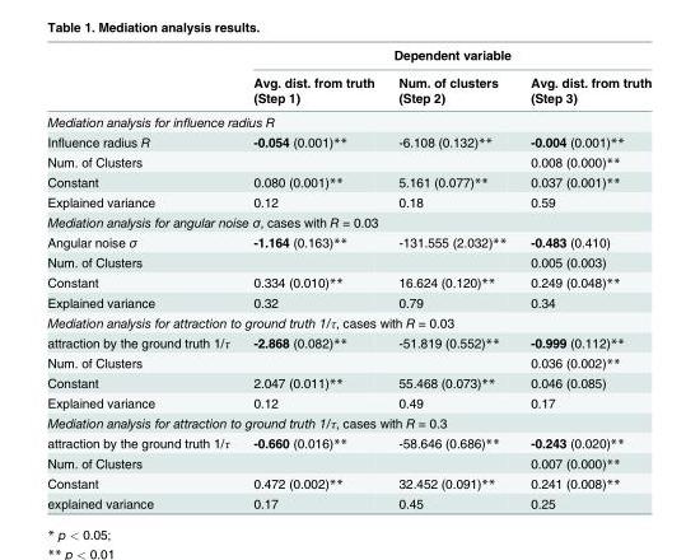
<table><thead><tr><td rowspan="3"></td><td colspan="3">Dependent variable</td></tr><tr><td rowspan="2">Avg. dist. from truth (Step 1)</td><td rowspan="2">Num. of clusters (Step 2)</td><td rowspan="2">Avg. dist. from truth (Step 3)</td></tr><tr></tr></thead><tbody><tr><td colspan="4">Mediation analysis for influence radius R</td></tr><tr><td>Influence radius R</td><td>-0.054 (0.001)**</td><td>-6.108 (0.132)**</td><td>-0.004 (0.001)**</td></tr><tr><td>Num. of Clusters</td><td></td><td></td><td>0.008 (0.000)**</td></tr><tr><td>Constant</td><td>0.080 (0.001)**</td><td>5.161 (0.077)**</td><td>0.037 (0.001)**</td></tr><tr><td>Explained variance</td><td>0.12</td><td>0.18</td><td>0.59</td></tr><tr><td colspan="4">Mediation analysis for angular noise σ, cases with R = 0.03</td></tr><tr><td>Angular noise σ</td><td>-1.164 (0.163)**</td><td>-131.555 (2.032)**</td><td>-0.483 (0.410)</td></tr><tr><td>Num. of Clusters</td><td></td><td></td><td>0.005 (0.003)</td></tr><tr><td>Constant</td><td>0.334 (0.010)**</td><td>16.624 (0.120)**</td><td>0.249 (0.048)**</td></tr><tr><td>Explained variance</td><td>0.32</td><td>0.79</td><td>0.34</td></tr><tr><td colspan="4">Mediation analysis for attraction to ground truth 1/τ, cases with R = 0.03</td></tr><tr><td>attraction by the ground truth 1/τ</td><td>-2.868 (0.082)**</td><td>-51.819 (0.552)**</td><td>-0.999 (0.112)**</td></tr><tr><td>Num. of Clusters</td><td></td><td></td><td>0.036 (0.002)**</td></tr><tr><td>Constant</td><td>2.047 (0.011)**</td><td>55.468 (0.073)**</td><td>0.046 (0.085)</td></tr><tr><td>Explained variance</td><td>0.12</td><td>0.49</td><td>0.17</td></tr><tr><td colspan="4">Mediation analysis for attraction to ground truth 1/τ, cases with R = 0.3</td></tr><tr><td>attraction by the ground truth 1/τ</td><td>-0.660 (0.016)**</td><td>-58.646 (0.686)**</td><td>-0.243 (0.020)**</td></tr><tr><td>Num. of Clusters</td><td></td><td></td><td>0.007 (0.000)**</td></tr><tr><td>Constant</td><td>0.472 (0.002)**</td><td>32.452 (0.091)**</td><td>0.241 (0.008)**</td></tr><tr><td>explained variance</td><td>0.17</td><td>0.45</td><td>0.25</td></tr></tbody></table>